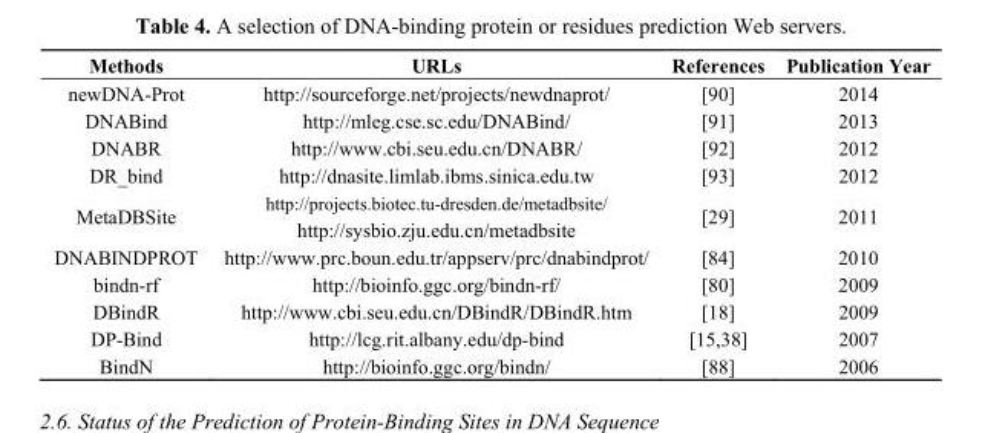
<table><thead><tr><td>Methods</td><td>URLs</td><td>References</td><td>Publication Year</td></tr></thead><tbody><tr><td>newDNA-Prot</td><td>http://sourceforge.net/projects/newdnaprot/</td><td>[90]</td><td>2014</td></tr><tr><td>DNABind</td><td>http://mleg.cse.sc.edu/DNABind/</td><td>[91]</td><td>2013</td></tr><tr><td>DNABR</td><td>http://www.cbi.seu.edu.cn/DNABR/</td><td>[92]</td><td>2012</td></tr><tr><td>DR_bind</td><td>http://dnasite.limlab.ibms.sinica.edu.tw</td><td>[93]</td><td>2012</td></tr><tr><td>MetaDBSite</td><td>http://projects.biotec.tu-dresden.de/metadbsite/ http://sysbio.zju.edu.cn/metadbsite</td><td>[29]</td><td>2011</td></tr><tr><td>DNABINDPROT</td><td>http://www.prc.boun.edu.tr/appserv/prc/dnabindprot/</td><td>[84]</td><td>2010</td></tr><tr><td>bindn-rf</td><td>http://bioinfo.ggc.org/bindn-rf/</td><td>[80]</td><td>2009</td></tr><tr><td>DBindR</td><td>http://www.cbi.seu.edu.cn/DBindR/DBindR.htm</td><td>[18]</td><td>2009</td></tr><tr><td>DP-Bind</td><td>http://lcg.rit.albany.edu/dp-bind</td><td>[15,38]</td><td>2007</td></tr><tr><td>BindN</td><td>http://bioinfo.ggc.org/bindn/</td><td>[88]</td><td>2006</td></tr></tbody></table>